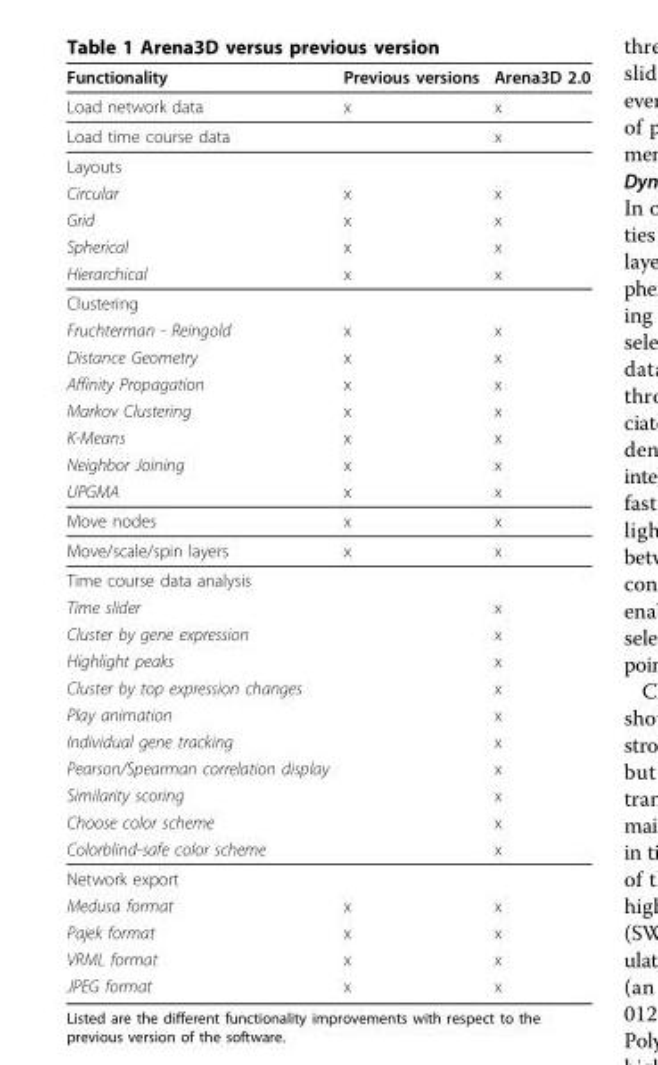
<table><thead><tr><td>Functionality</td><td>Previous versions</td><td>Arena3D 2.0</td></tr></thead><tbody><tr><td>Load network data</td><td>x</td><td>x</td></tr><tr><td>Load time course data</td><td></td><td>x</td></tr><tr><td colspan="3">Layouts</td></tr><tr><td>Circular</td><td>x</td><td>x</td></tr><tr><td>Grid</td><td>x</td><td>x</td></tr><tr><td>Spherical</td><td>x</td><td>x</td></tr><tr><td>Hierarchical</td><td>x</td><td>x</td></tr><tr><td colspan="3">Clustering</td></tr><tr><td>Fruchterman - Reingold</td><td>x</td><td>x</td></tr><tr><td>Distance Geometry</td><td>x</td><td>x</td></tr><tr><td>Affinity Propagation</td><td>x</td><td>x</td></tr><tr><td>Markov Clustering</td><td>x</td><td>x</td></tr><tr><td>K-Means</td><td>x</td><td>x</td></tr><tr><td>Neighbor Joining</td><td>x</td><td>x</td></tr><tr><td>UPGMA</td><td>x</td><td>x</td></tr><tr><td>Move nodes</td><td>x</td><td>x</td></tr><tr><td>Move/scale/spin layers</td><td>x</td><td>x</td></tr><tr><td colspan="3">Time course data analysis</td></tr><tr><td>Time slider</td><td></td><td>x</td></tr><tr><td>Cluster by gene expression</td><td></td><td>x</td></tr><tr><td>Highlight peaks</td><td></td><td>x</td></tr><tr><td>Cluster by top expression changes</td><td></td><td>x</td></tr><tr><td>Play animation</td><td></td><td>x</td></tr><tr><td>Individual gene tracking</td><td></td><td>x</td></tr><tr><td>Pearson/Spearman correlation display</td><td></td><td>x</td></tr><tr><td>Similarity scoring</td><td></td><td>x</td></tr><tr><td>Choose color scheme</td><td></td><td>x</td></tr><tr><td>Colorblind-safe color scheme</td><td></td><td>x</td></tr><tr><td colspan="3">Network export</td></tr><tr><td>Medusa format</td><td>x</td><td>x</td></tr><tr><td>Pajek format</td><td>x</td><td>x</td></tr><tr><td>VRML format</td><td>x</td><td>x</td></tr><tr><td>JPEG format</td><td>x</td><td>x</td></tr></tbody></table>